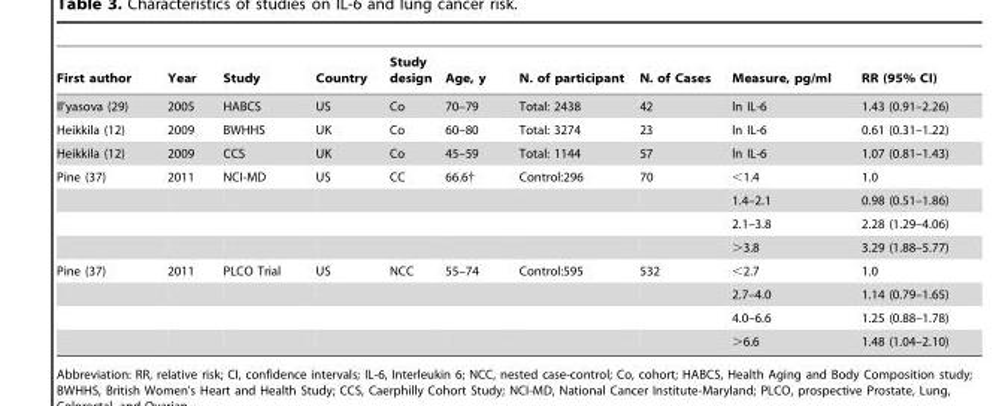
<table><thead><tr><td>First author</td><td>Year</td><td>Study</td><td>Country</td><td>Study design</td><td>Age, y</td><td>N. of participant</td><td>N. of Cases</td><td>Measure, pg/ml</td><td>RR (95% CI)</td></tr></thead><tbody><tr><td>Il’yasova (29)</td><td>2005</td><td>HABCS</td><td>US</td><td>Co</td><td>70–79</td><td>Total: 2438</td><td>42</td><td>ln IL-6</td><td>1.43 (0.91–2.26)</td></tr><tr><td>Heikkila (12)</td><td>2009</td><td>BWHHS</td><td>UK</td><td>Co</td><td>60–80</td><td>Total: 3274</td><td>23</td><td>ln IL-6</td><td>0.61 (0.31–1.22)</td></tr><tr><td>Heikkila (12)</td><td>2009</td><td>CCS</td><td>UK</td><td>Co</td><td>45–59</td><td>Total: 1144</td><td>57</td><td>ln IL-6</td><td>1.07 (0.81–1.43)</td></tr><tr><td rowspan="4">Pine (37)</td><td>2011</td><td>NCI-MD</td><td>US</td><td>CC</td><td>66.6†</td><td>Control:296</td><td>70</td><td>&lt;1.4</td><td>1.0</td></tr><tr><td></td><td></td><td></td><td></td><td></td><td></td><td></td><td>1.4–2.1</td><td>0.98 (0.51–1.86)</td></tr><tr><td></td><td></td><td></td><td></td><td></td><td></td><td></td><td>2.1–3.8</td><td>2.28 (1.29–4.06)</td></tr><tr><td></td><td></td><td></td><td></td><td></td><td></td><td></td><td>&gt;3.8</td><td>3.29 (1.88–5.77)</td></tr><tr><td rowspan="4">Pine (37)</td><td>2011</td><td>PLCO Trial</td><td>US</td><td>NCC</td><td>55–74</td><td>Control:595</td><td>532</td><td>&lt;2.7</td><td>1.0</td></tr><tr><td></td><td></td><td></td><td></td><td></td><td></td><td></td><td>2.7–4.0</td><td>1.14 (0.79–1.65)</td></tr><tr><td></td><td></td><td></td><td></td><td></td><td></td><td></td><td>4.0–6.6</td><td>1.25 (0.88–1.78)</td></tr><tr><td></td><td></td><td></td><td></td><td></td><td></td><td></td><td>&gt;6.6</td><td>1.48 (1.04–2.10)</td></tr></tbody></table>